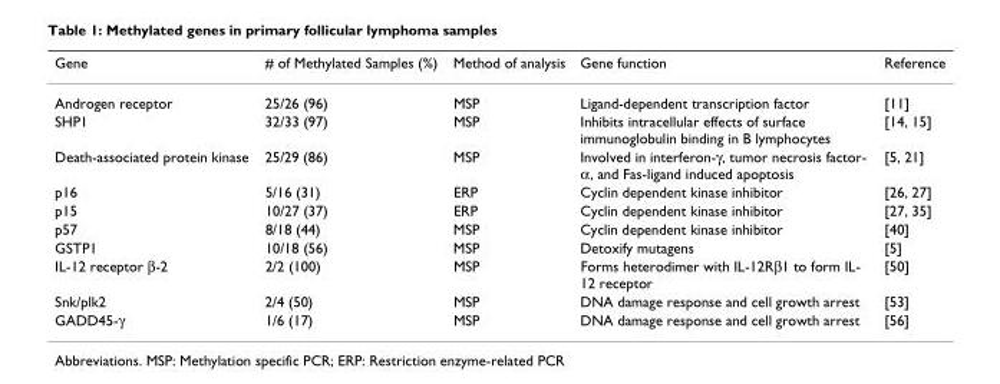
<table><thead><tr><td>Gene</td><td># of Methylated Samples (%)</td><td>Method of analysis</td><td>Gene function</td><td>Reference</td></tr></thead><tbody><tr><td>Androgen receptor</td><td>25/26 (96)</td><td>MSP</td><td>Ligand-dependent transcription factor</td><td>[11]</td></tr><tr><td>SHP1</td><td>32/33 (97)</td><td>MSP</td><td>Inhibits intracellular effects of surface immunoglobulin binding in B lymphocytes</td><td>[14, 15]</td></tr><tr><td>Death-associated protein kinase</td><td>25/29 (86)</td><td>MSP</td><td>Involved in interferon-γ, tumor necrosis factor- α, and Fas-ligand induced apoptosis</td><td>[5, 21]</td></tr><tr><td>p16</td><td>5/16 (31)</td><td>ERP</td><td>Cyclin dependent kinase inhibitor</td><td>[26, 27]</td></tr><tr><td>p15</td><td>10/27 (37)</td><td>ERP</td><td>Cyclin dependent kinase inhibitor</td><td>[27, 35]</td></tr><tr><td>p57</td><td>8/18 (44)</td><td>MSP</td><td>Cyclin dependent kinase inhibitor</td><td>[40]</td></tr><tr><td>GSTP1</td><td>10/18 (56)</td><td>MSP</td><td>Detoxify mutagens</td><td>[5]</td></tr><tr><td>IL-12 receptor β-2</td><td>2/2 (100)</td><td>MSP</td><td>Forms heterodimer with IL-12Rβ1 to form IL- 12 receptor</td><td>[50]</td></tr><tr><td>Snk/plk2</td><td>2/4 (50)</td><td>MSP</td><td>DNA damage response and cell growth arrest</td><td>[53]</td></tr><tr><td>GADD45-γ</td><td>1/6 (17)</td><td>MSP</td><td>DNA damage response and cell growth arrest</td><td>[56]</td></tr></tbody></table>